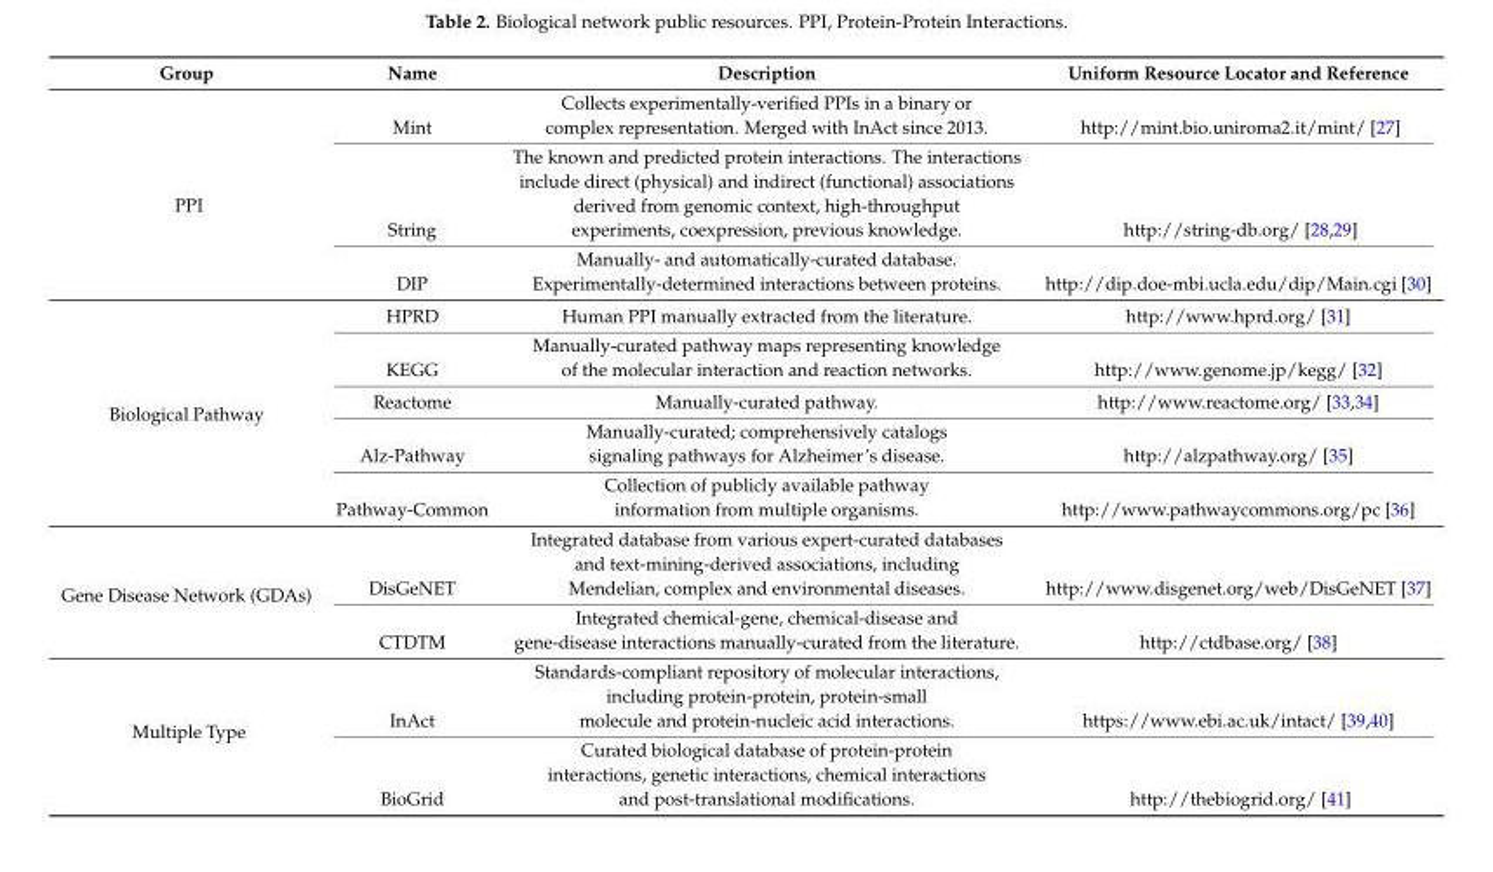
<table><thead><tr><td>Group</td><td>Name</td><td>Description</td><td>Uniform Resource Locator and Reference</td></tr></thead><tbody><tr><td rowspan="3">PPI</td><td>Mint</td><td>Collects experimentally-verified PPIs in a binary or complex representation. Merged with InAct since 2013.</td><td>http://mint.bio.uniroma2.it/mint/ [27]</td></tr><tr><td>String</td><td>The known and predicted protein interactions. The interactions include direct (physical) and indirect (functional) associations derived from genomic context, high-throughput experiments, coexpression, previous knowledge.</td><td>http://string-db.org/ [28,29]</td></tr><tr><td>DIP</td><td>Manually- and automatically-curated database. Experimentally-determined interactions between proteins.</td><td>http://dip.doe-mbi.ucla.edu/dip/Main.cgi [30]</td></tr><tr><td rowspan="5">Biological Pathway</td><td>HPRD</td><td>Human PPI manually extracted from the literature.</td><td>http://www.hprd.org/ [31]</td></tr><tr><td>KEGG</td><td>Manually-curated pathway maps representing knowledge of the molecular interaction and reaction networks.</td><td>http://www.genome.jp/kegg/ [32]</td></tr><tr><td>Reactome</td><td>Manually-curated pathway.</td><td>http://www.reactome.org/ [33,34]</td></tr><tr><td>Alz-Pathway</td><td>Manually-curated; comprehensively catalogs signaling pathways for Alzheimer’s disease.</td><td>http://alzpathway.org/ [35]</td></tr><tr><td>Pathway-Common</td><td>Collection of publicly available pathway information from multiple organisms.</td><td>http://www.pathwaycommons.org/pc [36]</td></tr><tr><td rowspan="2">Gene Disease Network (GDAs)</td><td>DisGeNET</td><td>Integrated database from various expert-curated databases and text-mining-derived associations, including Mendelian, complex and environmental diseases.</td><td>http://www.disgenet.org/web/DisGeNET [37]</td></tr><tr><td>CTDTM</td><td>Integrated chemical-gene, chemical-disease and gene-disease interactions manually-curated from the literature.</td><td>http://ctdbase.org/ [38]</td></tr><tr><td rowspan="2">Multiple Type</td><td>InAct</td><td>Standards-compliant repository of molecular interactions, including protein-protein, protein-small molecule and protein-nucleic acid interactions.</td><td>https://www.ebi.ac.uk/intact/ [39,40]</td></tr><tr><td>BioGrid</td><td>Curated biological database of protein-protein interactions, genetic interactions, chemical interactions and post-translational modifications.</td><td>http://thebiogrid.org/ [41]</td></tr></tbody></table>